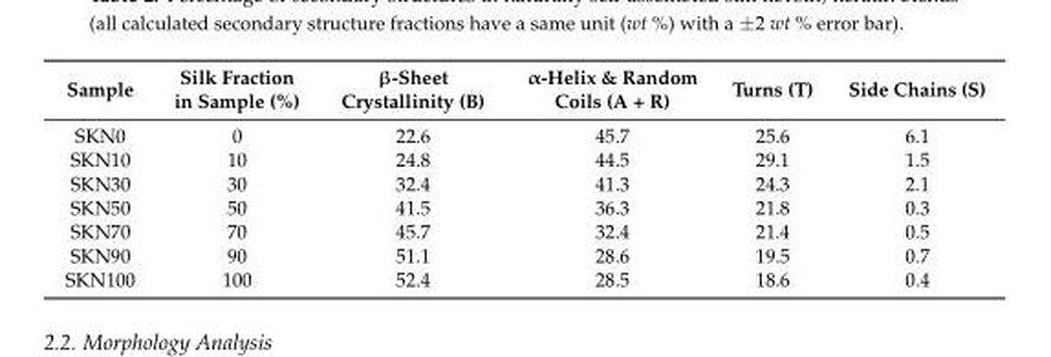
<table><thead><tr><td>Sample</td><td>Silk Fraction in Sample (%)</td><td>β-Sheet Crystallinity (B)</td><td>α-Helix &amp; Random Coils (A + R)</td><td>Turns (T)</td><td>Side Chains (S)</td></tr></thead><tbody><tr><td>SKN0</td><td>0</td><td>22.6</td><td>45.7</td><td>25.6</td><td>6.1</td></tr><tr><td>SKN10</td><td>10</td><td>24.8</td><td>44.5</td><td>29.1</td><td>1.5</td></tr><tr><td>SKN30</td><td>30</td><td>32.4</td><td>41.3</td><td>24.3</td><td>2.1</td></tr><tr><td>SKN50</td><td>50</td><td>41.5</td><td>36.3</td><td>21.8</td><td>0.3</td></tr><tr><td>SKN70</td><td>70</td><td>45.7</td><td>32.4</td><td>21.4</td><td>0.5</td></tr><tr><td>SKN90</td><td>90</td><td>51.1</td><td>28.6</td><td>19.5</td><td>0.7</td></tr><tr><td>SKN100</td><td>100</td><td>52.4</td><td>28.5</td><td>18.6</td><td>0.4</td></tr></tbody></table>